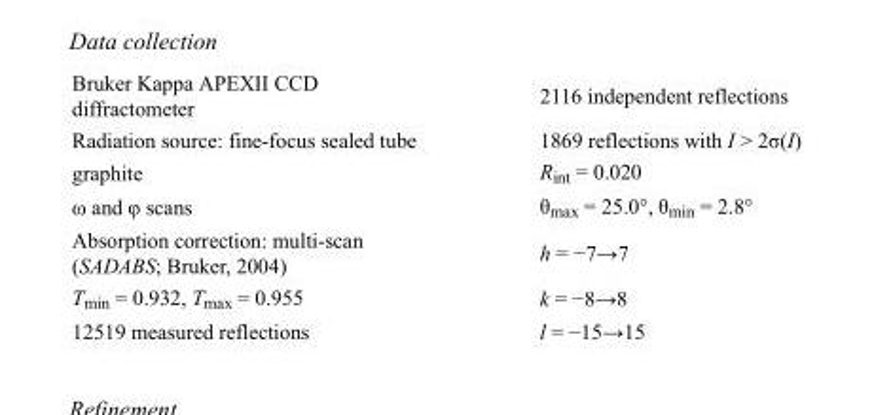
<table><tbody><tr><td>Bruker Kappa APEXII CCD diffractometer</td><td>2116 independent reflections</td></tr><tr><td>Radiation source: fine-focus sealed tube</td><td>1869 reflections with I &gt; 2σ(I)</td></tr><tr><td>graphite</td><td>R<sub>int</sub> = 0.020</td></tr><tr><td>ω and φ scans</td><td>θ<sub>max</sub> = 25.0°, θ<sub>min</sub> = 2.8°</td></tr><tr><td>Absorption correction: multi-scan (SADABS; Bruker, 2004)</td><td>h = −7→7</td></tr><tr><td>T<sub>min</sub> = 0.932, T<sub>max</sub> = 0.955</td><td>k = −8→8</td></tr><tr><td>12519 measured reflections</td><td>l = −15→15</td></tr></tbody></table>